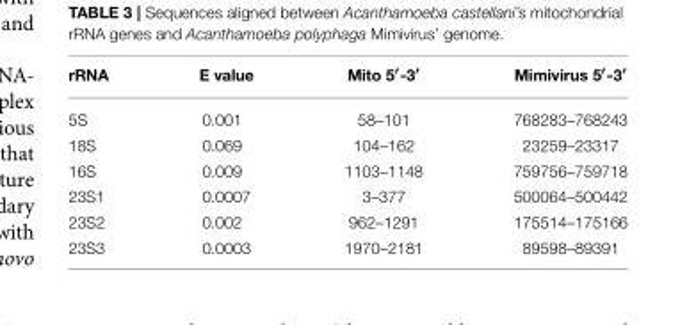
<table><thead><tr><td>rRNA</td><td>E value</td><td>Mito 5′-3′</td><td>Mimivirus 5′-3′</td></tr></thead><tbody><tr><td>5S</td><td>0.001</td><td>58–101</td><td>768283–768243</td></tr><tr><td>18S</td><td>0.069</td><td>104–162</td><td>23259–23317</td></tr><tr><td>16S</td><td>0.009</td><td>1103–1148</td><td>759756–759718</td></tr><tr><td>23S1</td><td>0.0007</td><td>3–377</td><td>500064–500442</td></tr><tr><td>23S2</td><td>0.002</td><td>962–1291</td><td>175514–175166</td></tr><tr><td>23S3</td><td>0.0003</td><td>1970–2181</td><td>89598–89391</td></tr></tbody></table>